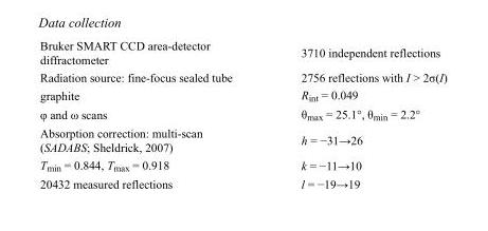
<table><tbody><tr><td>Bruker SMART CCD area-detector diffractometer</td><td>3710 independent reflections</td></tr><tr><td>Radiation source: fine-focus sealed tube</td><td>2756 reflections with I &gt; 2σ(I)</td></tr><tr><td>graphite</td><td>R<sub>int</sub> = 0.049</td></tr><tr><td>φ and ω scans</td><td>θ<sub>max</sub> = 25.1°, θ<sub>min</sub> = 2.2°</td></tr><tr><td>Absorption correction: multi-scan (SADABS; Sheldrick, 2007)</td><td>h = −31→26</td></tr><tr><td>T<sub>min</sub> = 0.844, T<sub>max</sub> = 0.918</td><td>k = −11→10</td></tr><tr><td>20432 measured reflections</td><td>l = −19→19</td></tr></tbody></table>